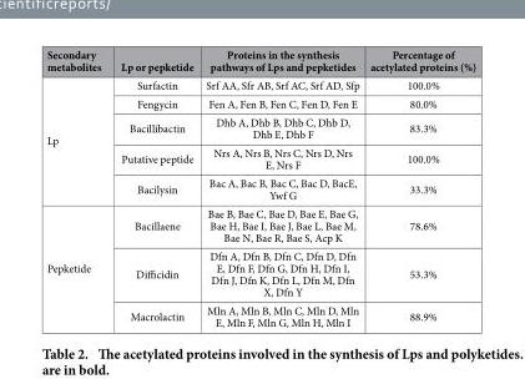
<table><thead><tr><td>Secondary metabolites</td><td>Lp or pepketide</td><td>Proteins in the synthesis pathways of Lps and pepketides</td><td>Percentage of acetylated proteins (%)</td></tr></thead><tbody><tr><td rowspan="5">Lp</td><td>Surfactin</td><td>Srf AA, Sfr AB, Srf AC, Srf AD, Sfp</td><td>100.0%</td></tr><tr><td>Fengycin</td><td>Fen A, Fen B, Fen C, Fen D, Fen E</td><td>80.0%</td></tr><tr><td>Bacillibactin</td><td>Dhb A, Dhb B, Dhb C, Dhb D, Dhb E, Dhb F</td><td>83.3%</td></tr><tr><td>Putative peptide</td><td>Nrs A, Nrs B, Nrs C, Nrs D, Nrs E, Nrs F</td><td>100.0%</td></tr><tr><td>Bacilysin</td><td>Bac A, Bac B, Bac C, Bac D, BacE, Ywf G</td><td>33.3%</td></tr><tr><td rowspan="3">Pepketide</td><td>Bacillaene</td><td>Bae B, Bae C, Bae D, Bae E, Bae G, Bae H, Bae I, Bae J, Bae L, Bae M, Bae N, Bae R, Bae S, Acp K</td><td>78.6%</td></tr><tr><td>Difficidin</td><td>Dfn A, Dfn B, Dfn C, Dfn D, Dfn E, Dfn F, Dfn G, Dfn H, Dfn I, Dfn J, Dfn K, Dfn L, Dfn M, Dfn X, Dfn Y</td><td>53.3%</td></tr><tr><td>Macrolactin</td><td>Mln A, Mln B, Mln C, Mln D, Mln E, Mln F, Mln G, Mln H, Mln I</td><td>88.9%</td></tr></tbody></table>